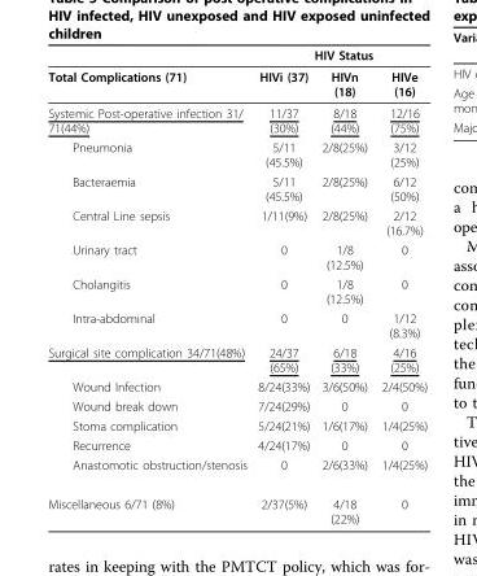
<table><thead><tr><td rowspan="2">Total Complications (71)</td><td colspan="3">HIV Status</td></tr><tr><td>HIVi (37)</td><td>HIVn (18)</td><td>HIVe (16)</td></tr></thead><tbody><tr><td>Systemic Post-operative infection 31/ 71(44%)</td><td>11/37 (30%)</td><td>8/18 (44%)</td><td>12/16 (75%)</td></tr><tr><td>Pneumonia</td><td>5/11 (45.5%)</td><td>2/8(25%)</td><td>3/12 (25%)</td></tr><tr><td>Bacteraemia</td><td>5/11 (45.5%)</td><td>2/8(25%)</td><td>6/12 (50%)</td></tr><tr><td>Central Line sepsis</td><td>1/11(9%)</td><td>2/8(25%)</td><td>2/12 (16.7%)</td></tr><tr><td>Urinary tract</td><td>0</td><td>1/8 (12.5%)</td><td>0</td></tr><tr><td>Cholangitis</td><td>0</td><td>1/8 (12.5%)</td><td>0</td></tr><tr><td>Intra-abdominal</td><td>0</td><td>0</td><td>1/12 (8.3%)</td></tr><tr><td>Surgical site complication 34/71(48%)</td><td>24/37 (65%)</td><td>6/18 (33%)</td><td>4/16 (25%)</td></tr><tr><td>Wound Infection</td><td>8/24(33%)</td><td>3/6(50%)</td><td>2/4(50%)</td></tr><tr><td>Wound break down</td><td>7/24(29%)</td><td>0</td><td>0</td></tr><tr><td>Stoma complication</td><td>5/24(21%)</td><td>1/6(17%)</td><td>1/4(25%)</td></tr><tr><td>Recurrence</td><td>4/24(17%)</td><td>0</td><td>0</td></tr><tr><td>Anastomotic obstruction/stenosis</td><td>0</td><td>2/6(33%)</td><td>1/4(25%)</td></tr><tr><td>Miscellaneous 6/71 (8%)</td><td>2/37(5%)</td><td>4/18 (22%)</td><td>0</td></tr></tbody></table>